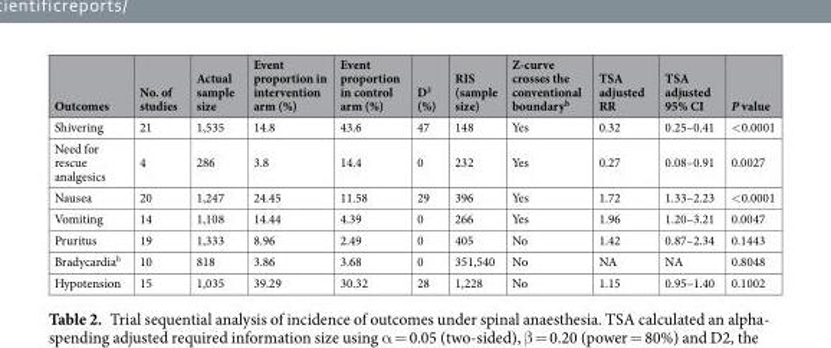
<table><thead><tr><td>Outcomes</td><td>No. of studies</td><td>Actual sample size</td><td>Event proportion in intervention arm (%)</td><td>Event proportion in control arm (%)</td><td>D<sup>2</sup> (%)</td><td>RIS (sample size)</td><td>Z-curve crosses the conventional boundary<sup>b</sup></td><td>TSA adjusted RR</td><td>TSA adjusted 95% CI</td><td>P value</td></tr></thead><tbody><tr><td>Shivering</td><td>21</td><td>1,535</td><td>14.8</td><td>43.6</td><td>47</td><td>148</td><td>Yes</td><td>0.32</td><td>0.25–0.41</td><td>&lt;0.0001</td></tr><tr><td>Need for rescue analgesics</td><td>4</td><td>286</td><td>3.8</td><td>14.4</td><td>0</td><td>232</td><td>Yes</td><td>0.27</td><td>0.08–0.91</td><td>0.0027</td></tr><tr><td>Nausea</td><td>20</td><td>1,247</td><td>24.45</td><td>11.58</td><td>29</td><td>396</td><td>Yes</td><td>1.72</td><td>1.33–2.23</td><td>&lt;0.0001</td></tr><tr><td>Vomiting</td><td>14</td><td>1,108</td><td>14.44</td><td>4.39</td><td>0</td><td>266</td><td>Yes</td><td>1.96</td><td>1.20–3.21</td><td>0.0047</td></tr><tr><td>Pruritus</td><td>19</td><td>1,333</td><td>8.96</td><td>2.49</td><td>0</td><td>405</td><td>No</td><td>1.42</td><td>0.87–2.34</td><td>0.1443</td></tr><tr><td>Bradycardia<sup>b</sup></td><td>10</td><td>818</td><td>3.86</td><td>3.68</td><td>0</td><td>351,540</td><td>No</td><td>NA</td><td>NA</td><td>0.8048</td></tr><tr><td>Hypotension</td><td>15</td><td>1,035</td><td>39.29</td><td>30.32</td><td>28</td><td>1,228</td><td>No</td><td>1.15</td><td>0.95–1.40</td><td>0.1002</td></tr></tbody></table>